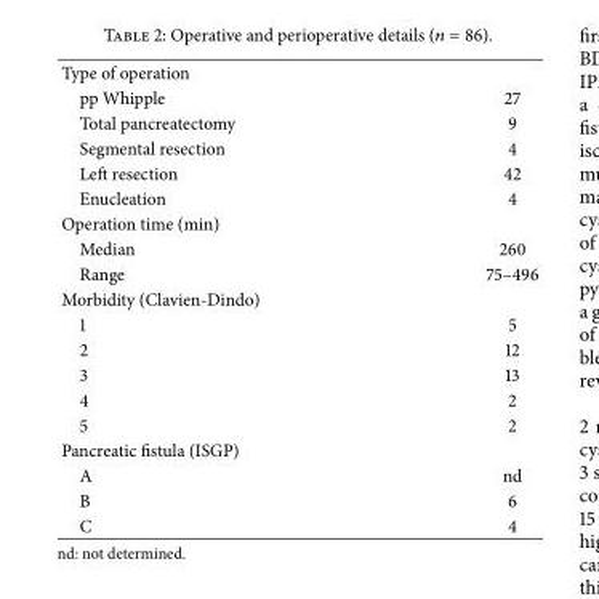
<table><tbody><tr><td colspan="2">Type of operation</td></tr><tr><td>pp Whipple</td><td>27</td></tr><tr><td>Total pancreatectomy</td><td>9</td></tr><tr><td>Segmental resection</td><td>4</td></tr><tr><td>Left resection</td><td>42</td></tr><tr><td>Enucleation</td><td>4</td></tr><tr><td colspan="2">Operation time (min)</td></tr><tr><td>Median</td><td>260</td></tr><tr><td>Range</td><td>75–496</td></tr><tr><td colspan="2">Morbidity (Clavien-Dindo)</td></tr><tr><td>1</td><td>5</td></tr><tr><td>2</td><td>12</td></tr><tr><td>3</td><td>13</td></tr><tr><td>4</td><td>2</td></tr><tr><td>5</td><td>2</td></tr><tr><td colspan="2">Pancreatic fistula (ISGP)</td></tr><tr><td>A</td><td>nd</td></tr><tr><td>B</td><td>6</td></tr><tr><td>C</td><td>4</td></tr></tbody></table>